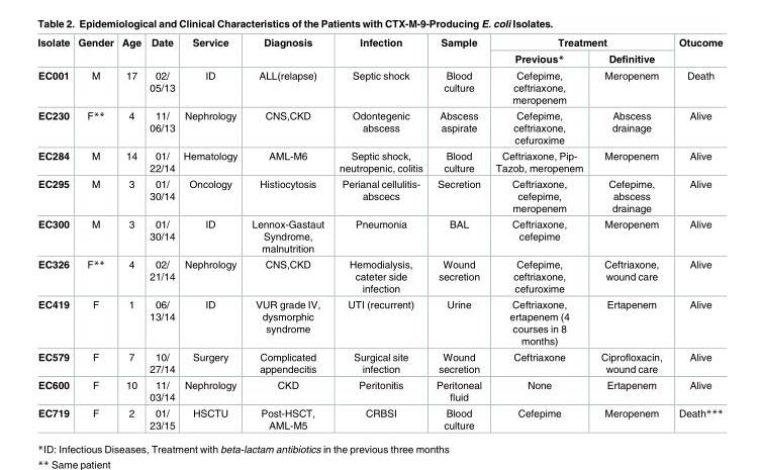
<table><thead><tr><td rowspan="2">Isolate</td><td rowspan="2">Gender</td><td rowspan="2">Age</td><td rowspan="2">Date</td><td rowspan="2">Service</td><td rowspan="2">Diagnosis</td><td rowspan="2">Infection</td><td rowspan="2">Sample</td><td colspan="2">Treatment</td><td rowspan="2">Otucome</td></tr><tr><td>Previous*</td><td>Definitive</td></tr></thead><tbody><tr><td>EC001</td><td>M</td><td>17</td><td>02/ 05/13</td><td>ID</td><td>ALL(relapse)</td><td>Septic shock</td><td>Blood culture</td><td>Cefepime, ceftriaxone, meropenem</td><td>Meropenem</td><td>Death</td></tr><tr><td>EC230</td><td>F**</td><td>4</td><td>11/ 06/13</td><td>Nephrology</td><td>CNS,CKD</td><td>Odontegenic abscess</td><td>Abscess aspirate</td><td>Cefepime, ceftriaxone, cefuroxime</td><td>Abscess drainage</td><td>Alive</td></tr><tr><td>EC284</td><td>M</td><td>14</td><td>01/ 22/14</td><td>Hematology</td><td>AML-M6</td><td>Septic shock, neutropenic, colitis</td><td>Blood culture</td><td>Ceftriaxone, Pip- Tazob, meropenem</td><td>Meropenem</td><td>Alive</td></tr><tr><td>EC295</td><td>M</td><td>3</td><td>01/ 30/14</td><td>Oncology</td><td>Histiocytosis</td><td>Perianal cellulitis- abscecs</td><td>Secretion</td><td>Ceftriaxone, cefepime, meropenem</td><td>Cefepime, abscess drainage</td><td>Alive</td></tr><tr><td>EC300</td><td>M</td><td>3</td><td>01/ 30/14</td><td>ID</td><td>Lennox-Gastaut Syndrome, malnutrition</td><td>Pneumonia</td><td>BAL</td><td>Ceftriaxone, cefepime</td><td>Meropenem</td><td>Alive</td></tr><tr><td>EC326</td><td>F**</td><td>4</td><td>02/ 21/14</td><td>Nephrology</td><td>CNS,CKD</td><td>Hemodialysis, cateter side infection</td><td>Wound secretion</td><td>Cefepime, ceftriaxone, cefuroxime</td><td>Ceftriaxone, wound care</td><td>Alive</td></tr><tr><td>EC419</td><td>F</td><td>1</td><td>06/ 13/14</td><td>ID</td><td>VUR grade IV, dysmorphic syndrome</td><td>UTI (recurrent)</td><td>Urine</td><td>Ceftriaxone, ertapenem (4 courses in 8 months)</td><td>Ertapenem</td><td>Alive</td></tr><tr><td>EC579</td><td>F</td><td>7</td><td>10/ 27/14</td><td>Surgery</td><td>Complicated appendecitis</td><td>Surgical site infection</td><td>Wound secretion</td><td>Ceftriaxone</td><td>Ciprofloxacin, wound care</td><td>Alive</td></tr><tr><td>EC600</td><td>F</td><td>10</td><td>11/ 03/14</td><td>Nephrology</td><td>CKD</td><td>Peritonitis</td><td>Peritoneal fluid</td><td>None</td><td>Ertapenem</td><td>Alive</td></tr><tr><td>EC719</td><td>F</td><td>2</td><td>01/ 23/15</td><td>HSCTU</td><td>Post-HSCT, AML-M5</td><td>CRBSI</td><td>Blood culture</td><td>Cefepime</td><td>Meropenem</td><td>Death***</td></tr></tbody></table>